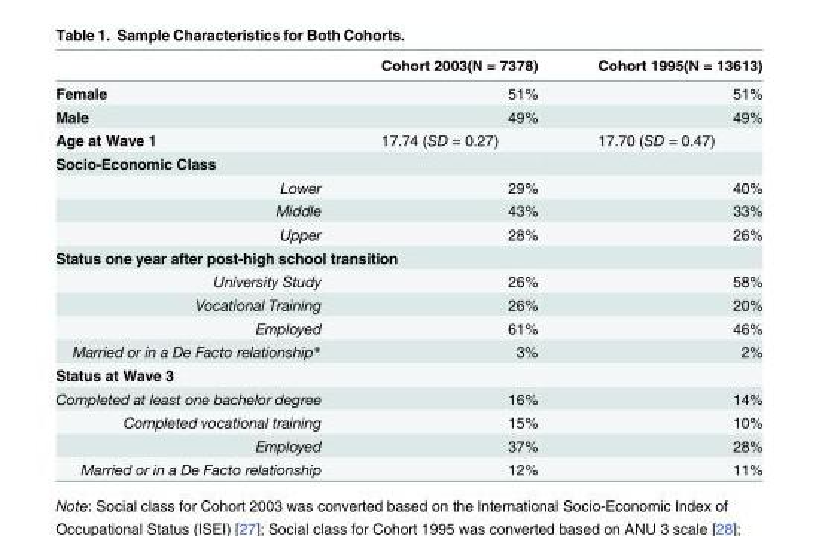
<table><thead><tr><td></td><td>Cohort 2003(N = 7378)</td><td>Cohort 1995(N = 13613)</td></tr></thead><tbody><tr><td>Female</td><td>51%</td><td>51%</td></tr><tr><td>Male</td><td>49%</td><td>49%</td></tr><tr><td>Age at Wave 1</td><td>17.74 (SD = 0.27)</td><td>17.70 (SD = 0.47)</td></tr><tr><td colspan="3">Socio-Economic Class</td></tr><tr><td>Lower</td><td>29%</td><td>40%</td></tr><tr><td>Middle</td><td>43%</td><td>33%</td></tr><tr><td>Upper</td><td>28%</td><td>26%</td></tr><tr><td colspan="3">Status one year after post-high school transition</td></tr><tr><td>University Study</td><td>26%</td><td>58%</td></tr><tr><td>Vocational Training</td><td>26%</td><td>20%</td></tr><tr><td>Employed</td><td>61%</td><td>46%</td></tr><tr><td>Married or in a De Facto relationship*</td><td>3%</td><td>2%</td></tr><tr><td colspan="3">Status at Wave 3</td></tr><tr><td>Completed at least one bachelor degree</td><td>16%</td><td>14%</td></tr><tr><td>Completed vocational training</td><td>15%</td><td>10%</td></tr><tr><td>Employed</td><td>37%</td><td>28%</td></tr><tr><td>Married or in a De Facto relationship</td><td>12%</td><td>11%</td></tr></tbody></table>